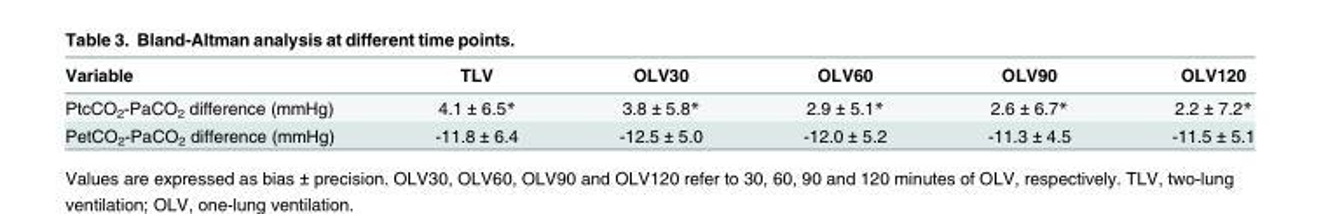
<table><thead><tr><td>Variable</td><td>TLV</td><td>OLV30</td><td>OLV60</td><td>OLV90</td><td>OLV120</td></tr></thead><tbody><tr><td>PtcCO<sub>2</sub>-PaCO<sub>2</sub> difference (mmHg)</td><td>4.1 ± 6.5*</td><td>3.8 ± 5.8*</td><td>2.9 ± 5.1*</td><td>2.6 ± 6.7*</td><td>2.2 ± 7.2*</td></tr><tr><td>PetCO<sub>2</sub>-PaCO<sub>2</sub> difference (mmHg)</td><td>-11.8 ± 6.4</td><td>-12.5 ± 5.0</td><td>-12.0 ± 5.2</td><td>-11.3 ± 4.5</td><td>-11.5 ± 5.1</td></tr></tbody></table>